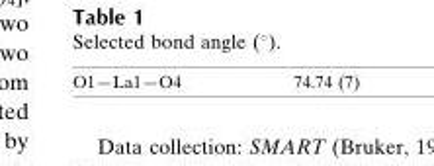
<table><tbody><tr><td>O1—La1—O4</td><td>74.74 (7)</td></tr></tbody></table>